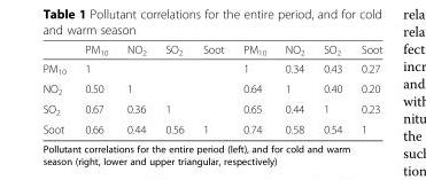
<table><thead><tr><td></td><td>PM<sub>10</sub></td><td>NO<sub>2</sub></td><td>SO<sub>2</sub></td><td>Soot</td><td>PM<sub>10</sub></td><td>NO<sub>2</sub></td><td>SO<sub>2</sub></td><td>Soot</td></tr></thead><tbody><tr><td>PM<sub>10</sub></td><td>1</td><td></td><td></td><td></td><td>1</td><td>0.34</td><td>0.43</td><td>0.27</td></tr><tr><td>NO<sub>2</sub></td><td>0.50</td><td>1</td><td></td><td></td><td>0.64</td><td>1</td><td>0.40</td><td>0.20</td></tr><tr><td>SO<sub>2</sub></td><td>0.67</td><td>0.36</td><td>1</td><td></td><td>0.65</td><td>0.44</td><td>1</td><td>0.23</td></tr><tr><td>Soot</td><td>0.66</td><td>0.44</td><td>0.56</td><td>1</td><td>0.74</td><td>0.58</td><td>0.54</td><td>1</td></tr></tbody></table>